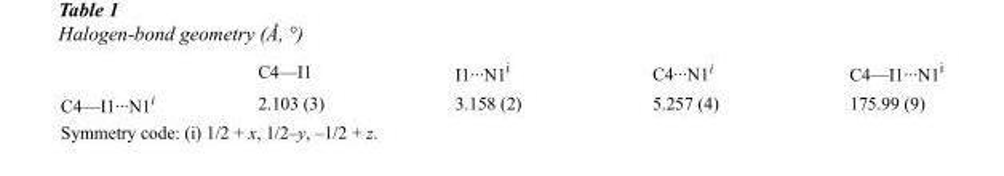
<table><thead><tr><td></td><td>C4—I1</td><td>I1···N1<sup>i</sup></td><td>C4···N1<sup>i</sup></td><td>C4—I1···N1<sup>i</sup></td></tr></thead><tbody><tr><td>C4—I1···N1<sup>i</sup></td><td>2.103 (3)</td><td>3.158 (2)</td><td>5.257 (4)</td><td>175.99 (9)</td></tr></tbody></table>